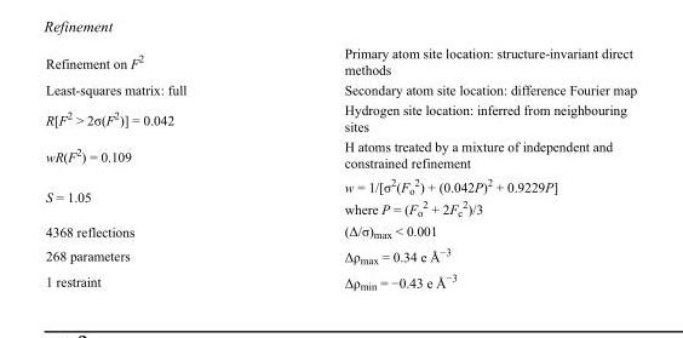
<table><tbody><tr><td>Refinement on F<sup>2</sup></td><td>Primary atom site location: structure-invariant direct methods</td></tr><tr><td>Least-squares matrix: full</td><td>Secondary atom site location: difference Fourier map</td></tr><tr><td>R[F<sup>2</sup> &gt; 2σ(F<sup>2</sup>)] = 0.042</td><td>Hydrogen site location: inferred from neighbouring sites</td></tr><tr><td>wR(F<sup>2</sup>) = 0.109</td><td>H atoms treated by a mixture of independent and constrained refinement</td></tr><tr><td>S = 1.05</td><td>w = 1/[σ<sup>2</sup>(F<sub>o</sub> <sup>2</sup>) + (0.042P)<sup>2</sup> + 0.9229P] where P = (F<sub>o</sub> <sup>2</sup> + 2F<sub>c</sub> <sup>2</sup>)/3</td></tr><tr><td>4368 reflections</td><td>(Δ/σ)<sub>max</sub> &lt; 0.001</td></tr><tr><td>268 parameters</td><td>Δρ<sub>max</sub> = 0.34 e Å<sup>−3</sup></td></tr><tr><td>1 restraint</td><td>Δρ<sub>min</sub> = −0.43 e Å<sup>−3</sup></td></tr></tbody></table>